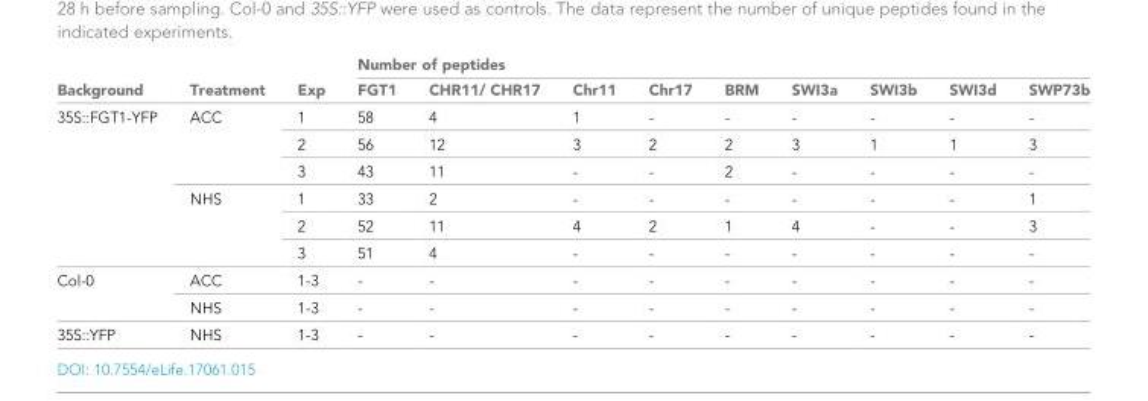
<table><thead><tr><td rowspan="2">Background</td><td rowspan="2">Treatment</td><td rowspan="2">Exp</td><td colspan="9">Number of peptides</td></tr><tr><td>FGT1</td><td>CHR11/ CHR17</td><td>Chr11</td><td>Chr17</td><td>BRM</td><td>SWI3a</td><td>SWI3b</td><td>SWI3d</td><td>SWP73b</td></tr></thead><tbody><tr><td rowspan="6">35S::FGT1-YFP</td><td rowspan="3">ACC</td><td>1</td><td>58</td><td>4</td><td>1</td><td>-</td><td>-</td><td>-</td><td>-</td><td>-</td><td>-</td></tr><tr><td>2</td><td>56</td><td>12</td><td>3</td><td>2</td><td>2</td><td>3</td><td>1</td><td>1</td><td>3</td></tr><tr><td>3</td><td>43</td><td>11</td><td>-</td><td>-</td><td>2</td><td>-</td><td>-</td><td>-</td><td>-</td></tr><tr><td rowspan="3">NHS</td><td>1</td><td>33</td><td>2</td><td>-</td><td>-</td><td>-</td><td>-</td><td>-</td><td>-</td><td>1</td></tr><tr><td>2</td><td>52</td><td>11</td><td>4</td><td>2</td><td>1</td><td>4</td><td>-</td><td>-</td><td>3</td></tr><tr><td>3</td><td>51</td><td>4</td><td>-</td><td>-</td><td>-</td><td>-</td><td>-</td><td>-</td><td>-</td></tr><tr><td rowspan="2">Col-0</td><td>ACC</td><td>1-3</td><td>-</td><td>-</td><td>-</td><td>-</td><td>-</td><td>-</td><td>-</td><td>-</td><td>-</td></tr><tr><td>NHS</td><td>1-3</td><td>-</td><td>-</td><td>-</td><td>-</td><td>-</td><td>-</td><td>-</td><td>-</td><td>-</td></tr><tr><td>35S::YFP</td><td>NHS</td><td>1-3</td><td>-</td><td>-</td><td>-</td><td>-</td><td>-</td><td>-</td><td>-</td><td>-</td><td>-</td></tr></tbody></table>